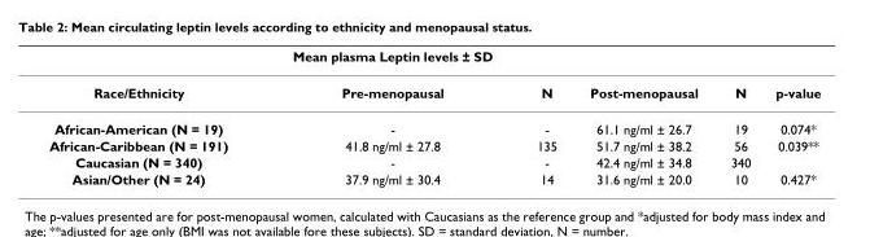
<table><thead><tr><td></td><td>Mean plasma Leptin levels ± SD</td><td></td><td></td><td></td><td></td></tr></thead><tbody><tr><td>Race/Ethnicity</td><td>Pre-menopausal</td><td>N</td><td>Post-menopausal</td><td>N</td><td>p-value</td></tr><tr><td>African-American (N = 19)</td><td>-</td><td>-</td><td>61.1 ng/ml ± 26.7</td><td>19</td><td>0.074*</td></tr><tr><td>African-Caribbean (N = 191)</td><td>41.8 ng/ml ± 27.8</td><td>135</td><td>51.7 ng/ml ± 38.2</td><td>56</td><td>0.039**</td></tr><tr><td>Caucasian (N = 340)</td><td>-</td><td>-</td><td>42.4 ng/ml ± 34.8</td><td>340</td><td></td></tr><tr><td>Asian/Other (N = 24)</td><td>37.9 ng/ml ± 30.4</td><td>14</td><td>31.6 ng/ml ± 20.0</td><td>10</td><td>0.427*</td></tr></tbody></table>